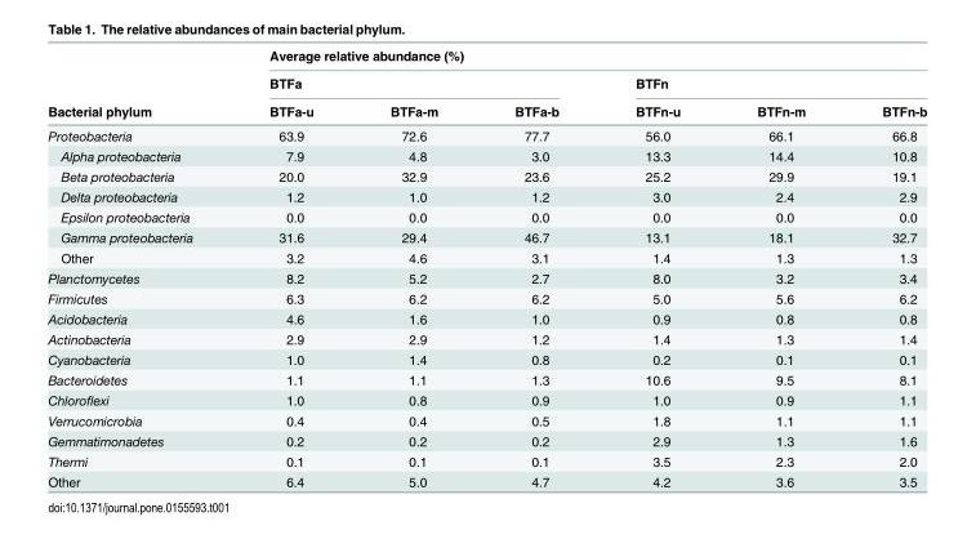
<table><thead><tr><td rowspan="3">Bacterial phylum</td><td colspan="6">Average relative abundance (%)</td></tr><tr><td colspan="3">BTFa</td><td colspan="3">BTFn</td></tr><tr><td>BTFa-u</td><td>BTFa-m</td><td>BTFa-b</td><td>BTFn-u</td><td>BTFn-m</td><td>BTFn-b</td></tr></thead><tbody><tr><td>Proteobacteria</td><td>63.9</td><td>72.6</td><td>77.7</td><td>56.0</td><td>66.1</td><td>66.8</td></tr><tr><td>Alpha proteobacteria</td><td>7.9</td><td>4.8</td><td>3.0</td><td>13.3</td><td>14.4</td><td>10.8</td></tr><tr><td>Beta proteobacteria</td><td>20.0</td><td>32.9</td><td>23.6</td><td>25.2</td><td>29.9</td><td>19.1</td></tr><tr><td>Delta proteobacteria</td><td>1.2</td><td>1.0</td><td>1.2</td><td>3.0</td><td>2.4</td><td>2.9</td></tr><tr><td>Epsilon proteobacteria</td><td>0.0</td><td>0.0</td><td>0.0</td><td>0.0</td><td>0.0</td><td>0.0</td></tr><tr><td>Gamma proteobacteria</td><td>31.6</td><td>29.4</td><td>46.7</td><td>13.1</td><td>18.1</td><td>32.7</td></tr><tr><td>Other</td><td>3.2</td><td>4.6</td><td>3.1</td><td>1.4</td><td>1.3</td><td>1.3</td></tr><tr><td>Planctomycetes</td><td>8.2</td><td>5.2</td><td>2.7</td><td>8.0</td><td>3.2</td><td>3.4</td></tr><tr><td>Firmicutes</td><td>6.3</td><td>6.2</td><td>6.2</td><td>5.0</td><td>5.6</td><td>6.2</td></tr><tr><td>Acidobacteria</td><td>4.6</td><td>1.6</td><td>1.0</td><td>0.9</td><td>0.8</td><td>0.8</td></tr><tr><td>Actinobacteria</td><td>2.9</td><td>2.9</td><td>1.2</td><td>1.4</td><td>1.3</td><td>1.4</td></tr><tr><td>Cyanobacteria</td><td>1.0</td><td>1.4</td><td>0.8</td><td>0.2</td><td>0.1</td><td>0.1</td></tr><tr><td>Bacteroidetes</td><td>1.1</td><td>1.1</td><td>1.3</td><td>10.6</td><td>9.5</td><td>8.1</td></tr><tr><td>Chloroflexi</td><td>1.0</td><td>0.8</td><td>0.9</td><td>1.0</td><td>0.9</td><td>1.1</td></tr><tr><td>Verrucomicrobia</td><td>0.4</td><td>0.4</td><td>0.5</td><td>1.8</td><td>1.1</td><td>1.1</td></tr><tr><td>Gemmatimonadetes</td><td>0.2</td><td>0.2</td><td>0.2</td><td>2.9</td><td>1.3</td><td>1.6</td></tr><tr><td>Thermi</td><td>0.1</td><td>0.1</td><td>0.1</td><td>3.5</td><td>2.3</td><td>2.0</td></tr><tr><td>Other</td><td>6.4</td><td>5.0</td><td>4.7</td><td>4.2</td><td>3.6</td><td>3.5</td></tr></tbody></table>